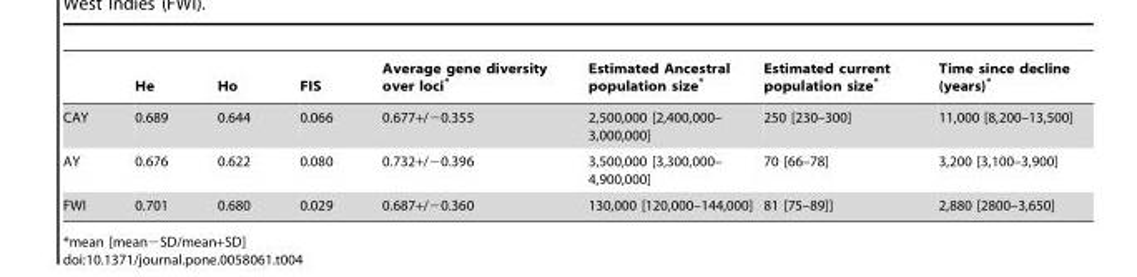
<table><thead><tr><td></td><td>He</td><td>Ho</td><td>FIS</td><td>Average gene diversity over loci*</td><td>Estimated Ancestral population size*</td><td>Estimated current population size*</td><td>Time since decline (years)*</td></tr></thead><tbody><tr><td>CAY</td><td>0.689</td><td>0.644</td><td>0.066</td><td>0.677+/−0.355</td><td>2,500,000 [2,400,000– 3,000,000]</td><td>250 [230–300]</td><td>11,000 [8,200–13,500]</td></tr><tr><td>AY</td><td>0.676</td><td>0.622</td><td>0.080</td><td>0.732+/−0.396</td><td>3,500,000 [3,300,000– 4,900,000]</td><td>70 [66–78]</td><td>3,200 [3,100–3,900]</td></tr><tr><td>FWI</td><td>0.701</td><td>0.680</td><td>0.029</td><td>0.687+/−0.360</td><td>130,000 [120,000–144,000]</td><td>81 [75–89]]</td><td>2,880 [2800–3,650]</td></tr></tbody></table>